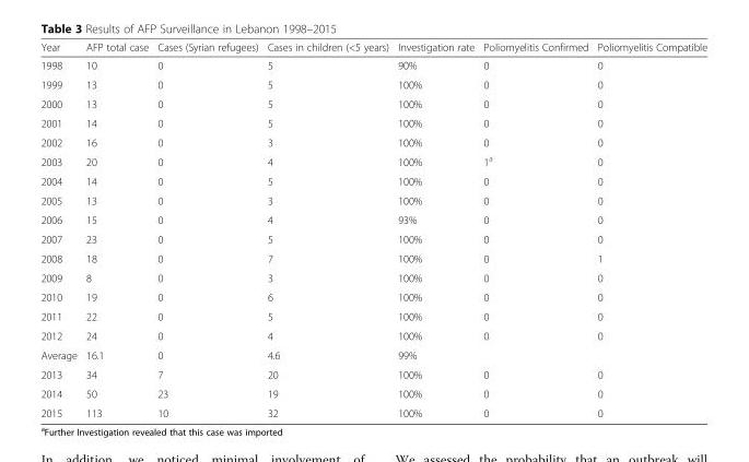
<table><thead><tr><td>Year</td><td>AFP total case</td><td>Cases (Syrian refugees)</td><td>Cases in children (&lt;5 years)</td><td>Investigation rate</td><td>Poliomyelitis Confirmed</td><td>Poliomyelitis Compatible</td></tr></thead><tbody><tr><td>1998</td><td>10</td><td>0</td><td>5</td><td>90%</td><td>0</td><td>0</td></tr><tr><td>1999</td><td>13</td><td>0</td><td>5</td><td>100%</td><td>0</td><td>0</td></tr><tr><td>2000</td><td>13</td><td>0</td><td>5</td><td>100%</td><td>0</td><td>0</td></tr><tr><td>2001</td><td>14</td><td>0</td><td>5</td><td>100%</td><td>0</td><td>0</td></tr><tr><td>2002</td><td>16</td><td>0</td><td>3</td><td>100%</td><td>0</td><td>0</td></tr><tr><td>2003</td><td>20</td><td>0</td><td>4</td><td>100%</td><td>1<sup>a</sup></td><td>0</td></tr><tr><td>2004</td><td>14</td><td>0</td><td>5</td><td>100%</td><td>0</td><td>0</td></tr><tr><td>2005</td><td>13</td><td>0</td><td>3</td><td>100%</td><td>0</td><td>0</td></tr><tr><td>2006</td><td>15</td><td>0</td><td>4</td><td>93%</td><td>0</td><td>0</td></tr><tr><td>2007</td><td>23</td><td>0</td><td>5</td><td>100%</td><td>0</td><td>0</td></tr><tr><td>2008</td><td>18</td><td>0</td><td>7</td><td>100%</td><td>0</td><td>1</td></tr><tr><td>2009</td><td>8</td><td>0</td><td>3</td><td>100%</td><td>0</td><td>0</td></tr><tr><td>2010</td><td>19</td><td>0</td><td>6</td><td>100%</td><td>0</td><td>0</td></tr><tr><td>2011</td><td>22</td><td>0</td><td>5</td><td>100%</td><td>0</td><td>0</td></tr><tr><td>2012</td><td>24</td><td>0</td><td>4</td><td>100%</td><td>0</td><td>0</td></tr><tr><td>Average</td><td>16.1</td><td>0</td><td>4.6</td><td>99%</td><td></td><td></td></tr><tr><td>2013</td><td>34</td><td>7</td><td>20</td><td>100%</td><td>0</td><td>0</td></tr><tr><td>2014</td><td>50</td><td>23</td><td>19</td><td>100%</td><td>0</td><td>0</td></tr><tr><td>2015</td><td>113</td><td>10</td><td>32</td><td>100%</td><td>0</td><td>0</td></tr></tbody></table>